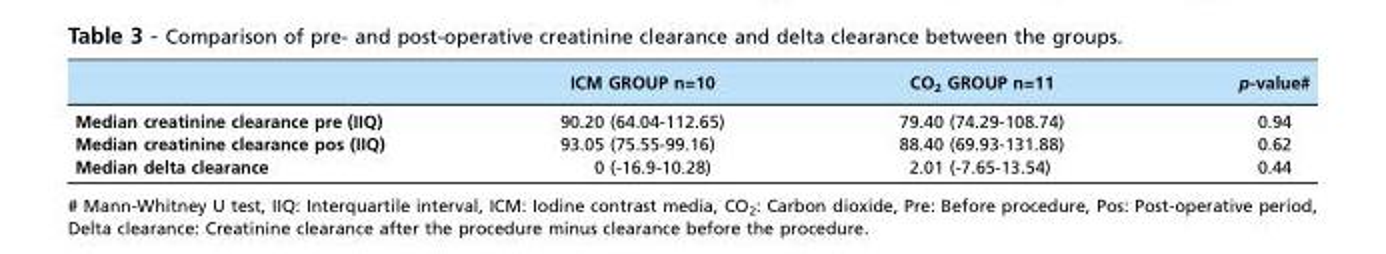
<table><thead><tr><td></td><td>ICM GROUP n=10</td><td>CO<sub>2</sub> GROUP n=11</td><td>p-value#</td></tr></thead><tbody><tr><td>Median creatinine clearance pre (IIQ)</td><td>90.20 (64.04-112.65)</td><td>79.40 (74.29-108.74)</td><td>0.94</td></tr><tr><td>Median creatinine clearance pos (IIQ)</td><td>93.05 (75.55-99.16)</td><td>88.40 (69.93-131.88)</td><td>0.62</td></tr><tr><td>Median delta clearance</td><td>0 (-16.9-10.28)</td><td>2.01 (-7.65-13.54)</td><td>0.44</td></tr></tbody></table>